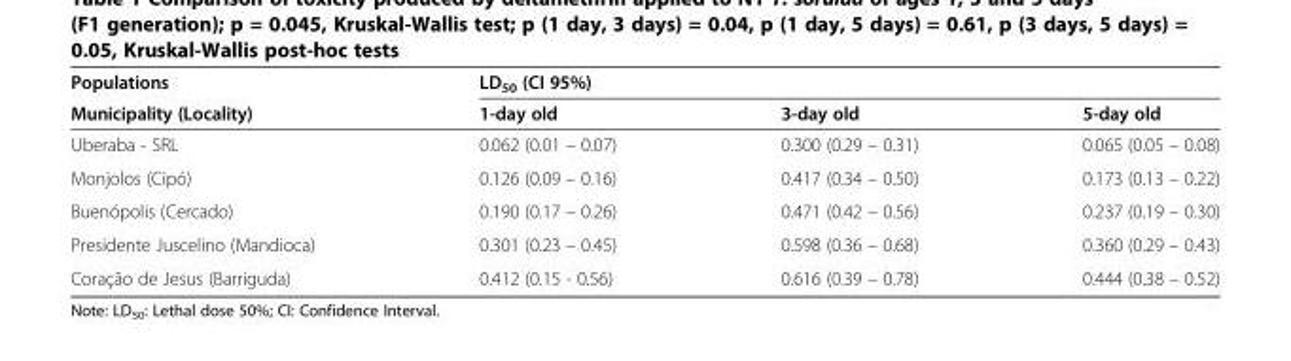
<table><thead><tr><td rowspan="2">Populations Municipality (Locality)</td><td colspan="3">LD<sub>50</sub> (CI 95%)</td></tr><tr><td>1-day old</td><td>3-day old</td><td>5-day old</td></tr></thead><tbody><tr><td>Uberaba - SRL</td><td>0.062 (0.01 – 0.07)</td><td>0.300 (0.29 – 0.31)</td><td>0.065 (0.05 – 0.08)</td></tr><tr><td>Monjolos (Cipó)</td><td>0.126 (0.09 – 0.16)</td><td>0.417 (0.34 – 0.50)</td><td>0.173 (0.13 – 0.22)</td></tr><tr><td>Buenópolis (Cercado)</td><td>0.190 (0.17 – 0.26)</td><td>0.471 (0.42 – 0.56)</td><td>0.237 (0.19 – 0.30)</td></tr><tr><td>Presidente Juscelino (Mandioca)</td><td>0.301 (0.23 – 0.45)</td><td>0.598 (0.36 – 0.68)</td><td>0.360 (0.29 – 0.43)</td></tr><tr><td>Coração de Jesus (Barriguda)</td><td>0.412 (0.15 - 0.56)</td><td>0.616 (0.39 – 0.78)</td><td>0.444 (0.38 – 0.52)</td></tr></tbody></table>